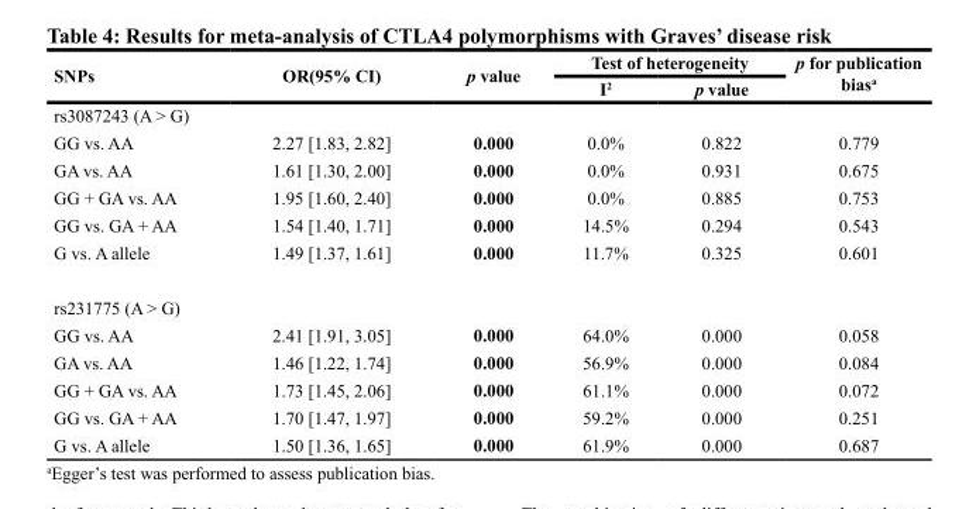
<table><thead><tr><td rowspan="2">SNPs</td><td rowspan="2">OR(95% CI)</td><td rowspan="2">p value</td><td colspan="2">Test of heterogeneity</td><td rowspan="2">p for publication bias<sup>a</sup></td></tr><tr><td>I<sup>2</sup></td><td>p value</td></tr></thead><tbody><tr><td colspan="6">rs3087243 (A &gt; G)</td></tr><tr><td>GG vs. AA</td><td>2.27 [1.83, 2.82]</td><td>0.000</td><td>0.0%</td><td>0.822</td><td>0.779</td></tr><tr><td>GA vs. AA</td><td>1.61 [1.30, 2.00]</td><td>0.000</td><td>0.0%</td><td>0.931</td><td>0.675</td></tr><tr><td>GG + GA vs. AA</td><td>1.95 [1.60, 2.40]</td><td>0.000</td><td>0.0%</td><td>0.885</td><td>0.753</td></tr><tr><td>GG vs. GA + AA</td><td>1.54 [1.40, 1.71]</td><td>0.000</td><td>14.5%</td><td>0.294</td><td>0.543</td></tr><tr><td>G vs. A allele</td><td>1.49 [1.37, 1.61]</td><td>0.000</td><td>11.7%</td><td>0.325</td><td>0.601</td></tr><tr><td colspan="6">rs231775 (A &gt; G)</td></tr><tr><td>GG vs. AA</td><td>2.41 [1.91, 3.05]</td><td>0.000</td><td>64.0%</td><td>0.000</td><td>0.058</td></tr><tr><td>GA vs. AA</td><td>1.46 [1.22, 1.74]</td><td>0.000</td><td>56.9%</td><td>0.000</td><td>0.084</td></tr><tr><td>GG + GA vs. AA</td><td>1.73 [1.45, 2.06]</td><td>0.000</td><td>61.1%</td><td>0.000</td><td>0.072</td></tr><tr><td>GG vs. GA + AA</td><td>1.70 [1.47, 1.97]</td><td>0.000</td><td>59.2%</td><td>0.000</td><td>0.251</td></tr><tr><td>G vs. A allele</td><td>1.50 [1.36, 1.65]</td><td>0.000</td><td>61.9%</td><td>0.000</td><td>0.687</td></tr></tbody></table>